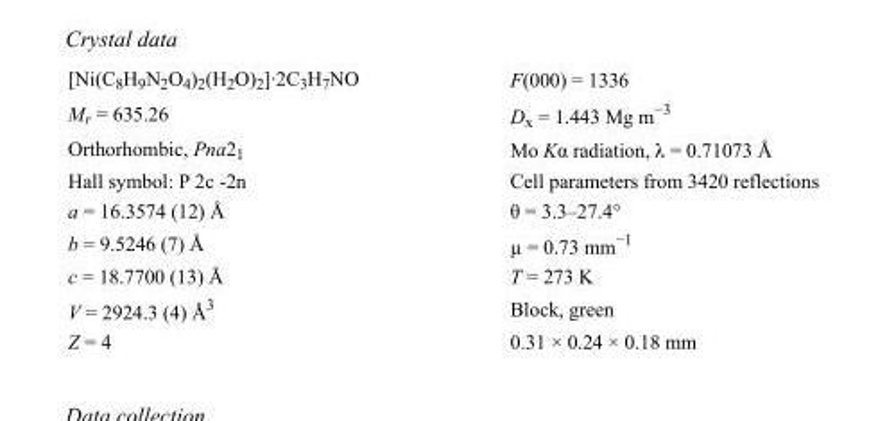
<table><tbody><tr><td>[Ni(C<sub>8</sub>H<sub>9</sub>N<sub>2</sub>O<sub>4</sub>)<sub>2</sub>(H<sub>2</sub>O)<sub>2</sub>]·2C<sub>3</sub>H<sub>7</sub>NO</td><td>F(000) = 1336</td></tr><tr><td>M<sub>r</sub> = 635.26</td><td>D<sub>x</sub> = 1.443 Mg m<sup>−3</sup></td></tr><tr><td>Orthorhombic, Pna2<sub>1</sub></td><td>Mo Kα radiation, λ = 0.71073 Å</td></tr><tr><td>Hall symbol: P 2c -2n</td><td>Cell parameters from 3420 reflections</td></tr><tr><td>a = 16.3574 (12) Å</td><td>θ = 3.3–27.4°</td></tr><tr><td>b = 9.5246 (7) Å</td><td>µ = 0.73 mm<sup>−1</sup></td></tr><tr><td>c = 18.7700 (13) Å</td><td>T = 273 K</td></tr><tr><td>V = 2924.3 (4) Å<sup>3</sup></td><td>Block, green</td></tr><tr><td>Z = 4</td><td>0.31 × 0.24 × 0.18 mm</td></tr></tbody></table>